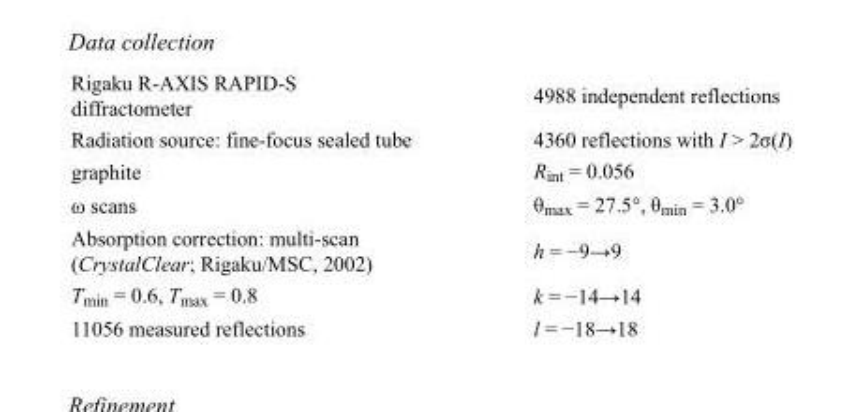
<table><tbody><tr><td>Rigaku R-AXIS RAPID-S diffractometer</td><td>4988 independent reflections</td></tr><tr><td>Radiation source: fine-focus sealed tube</td><td>4360 reflections with I &gt; 2σ(I)</td></tr><tr><td>graphite</td><td>R<sub>int</sub> = 0.056</td></tr><tr><td>ω scans</td><td>θ<sub>max</sub> = 27.5°, θ<sub>min</sub> = 3.0°</td></tr><tr><td>Absorption correction: multi-scan (CrystalClear; Rigaku/MSC, 2002)</td><td>h = −9→9</td></tr><tr><td>T<sub>min</sub> = 0.6, T<sub>max</sub> = 0.8</td><td>k = −14→14</td></tr><tr><td>11056 measured reflections</td><td>l = −18→18</td></tr></tbody></table>